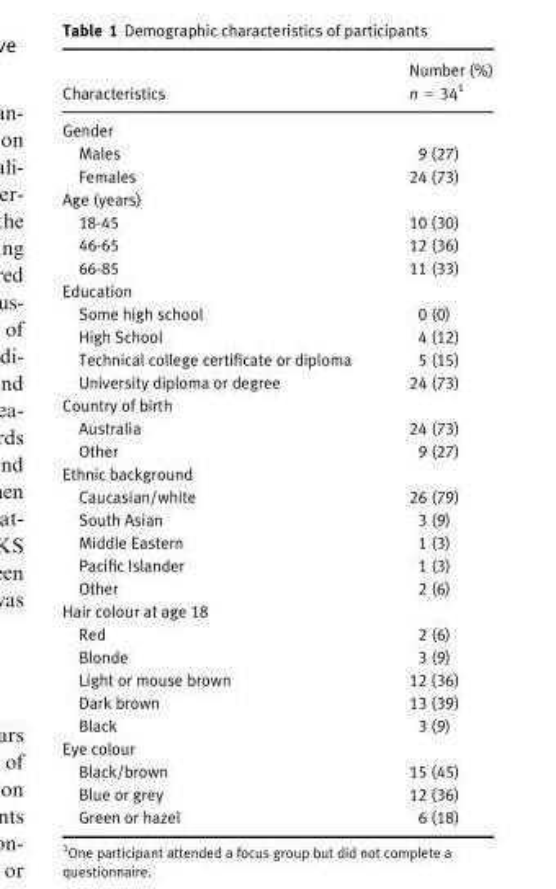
<table><thead><tr><td>Characteristics</td><td>Number (%) n = 341</td></tr></thead><tbody><tr><td colspan="2">Gender</td></tr><tr><td>Males</td><td>9 (27)</td></tr><tr><td>Females</td><td>24 (73)</td></tr><tr><td colspan="2">Age (years)</td></tr><tr><td>18-45</td><td>10 (30)</td></tr><tr><td>46-65</td><td>12 (36)</td></tr><tr><td>66-85</td><td>11 (33)</td></tr><tr><td colspan="2">Education</td></tr><tr><td>Some high school</td><td>0 (0)</td></tr><tr><td>High School</td><td>4 (12)</td></tr><tr><td>Technical college certificate or diploma</td><td>5 (15)</td></tr><tr><td>University diploma or degree</td><td>24 (73)</td></tr><tr><td colspan="2">Country of birth</td></tr><tr><td>Australia</td><td>24 (73)</td></tr><tr><td>Other</td><td>9 (27)</td></tr><tr><td colspan="2">Ethnic background</td></tr><tr><td>Caucasian/white</td><td>26 (79)</td></tr><tr><td>South Asian</td><td>3 (9)</td></tr><tr><td>Middle Eastern</td><td>1 (3)</td></tr><tr><td>Pacific Islander</td><td>1 (3)</td></tr><tr><td>Other</td><td>2 (6)</td></tr><tr><td colspan="2">Hair colour at age 18</td></tr><tr><td>Red</td><td>2 (6)</td></tr><tr><td>Blonde</td><td>3 (9)</td></tr><tr><td>Light or mouse brown</td><td>12 (36)</td></tr><tr><td>Dark brown</td><td>13 (39)</td></tr><tr><td>Black</td><td>3 (9)</td></tr><tr><td colspan="2">Eye colour</td></tr><tr><td>Black/brown</td><td>15 (45)</td></tr><tr><td>Blue or grey</td><td>12 (36)</td></tr><tr><td>Green or hazel</td><td>6 (18)</td></tr></tbody></table>